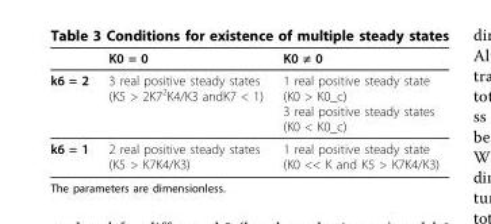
<table><thead><tr><td></td><td>K0 = 0</td><td>K0 ≠ 0</td></tr></thead><tbody><tr><td>k6 = 2</td><td>3 real positive steady states (K5 &gt; 2K7<sup>2</sup>K4/K3 andK7 &lt; 1)</td><td>1 real positive steady state (K0 &gt; K0_c) 3 real positive steady states (K0 &lt; K0_c)</td></tr><tr><td>k6 = 1</td><td>2 real positive steady states (K5 &gt; K7K4/K3)</td><td>1 real positive steady state (K0 &lt;&lt; K and K5 &gt; K7K4/K3)</td></tr></tbody></table>